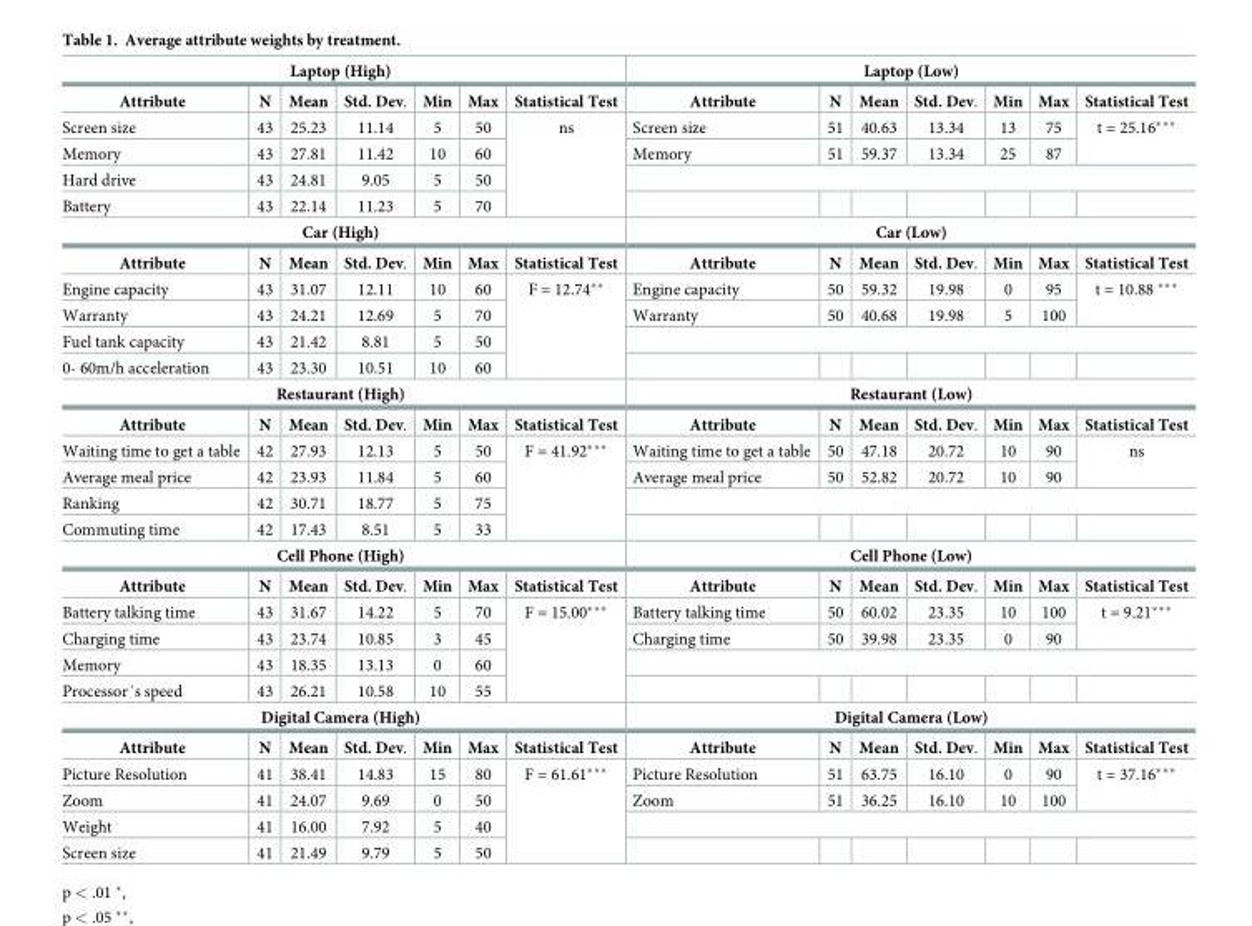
<table><tbody><tr><td colspan="7">Laptop (High)</td><td colspan="7">Laptop (Low)</td></tr><tr><td>Attribute</td><td>N</td><td>Mean</td><td>Std. Dev.</td><td>Min</td><td>Max</td><td>Statistical Test</td><td>Attribute</td><td>N</td><td>Mean</td><td>Std. Dev.</td><td>Min</td><td>Max</td><td>Statistical Test</td></tr><tr><td>Screen size</td><td>43</td><td>25.23</td><td>11.14</td><td>5</td><td>50</td><td rowspan="4">ns</td><td>Screen size</td><td>51</td><td>40.63</td><td>13.34</td><td>13</td><td>75</td><td rowspan="2">t = 25.16***</td></tr><tr><td>Memory</td><td>43</td><td>27.81</td><td>11.42</td><td>10</td><td>60</td><td>Memory</td><td>51</td><td>59.37</td><td>13.34</td><td>25</td><td>87</td></tr><tr><td>Hard drive</td><td>43</td><td>24.81</td><td>9.05</td><td>5</td><td>50</td><td colspan="7"></td></tr><tr><td>Battery</td><td>43</td><td>22.14</td><td>11.23</td><td>5</td><td>70</td><td></td><td></td><td></td><td></td><td></td><td></td><td></td></tr><tr><td colspan="7">Car (High)</td><td colspan="7">Car (Low)</td></tr><tr><td>Attribute</td><td>N</td><td>Mean</td><td>Std. Dev.</td><td>Min</td><td>Max</td><td>Statistical Test</td><td>Attribute</td><td>N</td><td>Mean</td><td>Std. Dev.</td><td>Min</td><td>Max</td><td>Statistical Test</td></tr><tr><td>Engine capacity</td><td>43</td><td>31.07</td><td>12.11</td><td>10</td><td>60</td><td rowspan="4">F = 12.74**</td><td>Engine capacity</td><td>50</td><td>59.32</td><td>19.98</td><td>0</td><td>95</td><td rowspan="2">t = 10.88 ***</td></tr><tr><td>Warranty</td><td>43</td><td>24.21</td><td>12.69</td><td>5</td><td>70</td><td>Warranty</td><td>50</td><td>40.68</td><td>19.98</td><td>5</td><td>100</td></tr><tr><td>Fuel tank capacity</td><td>43</td><td>21.42</td><td>8.81</td><td>5</td><td>50</td><td colspan="7"></td></tr><tr><td>0- 60m/h acceleration</td><td>43</td><td>23.30</td><td>10.51</td><td>10</td><td>60</td><td></td><td></td><td></td><td></td><td></td><td></td><td></td></tr><tr><td colspan="7">Restaurant (High)</td><td colspan="7">Restaurant (Low)</td></tr><tr><td>Attribute</td><td>N</td><td>Mean</td><td>Std. Dev.</td><td>Min</td><td>Max</td><td>Statistical Test</td><td>Attribute</td><td>N</td><td>Mean</td><td>Std. Dev.</td><td>Min</td><td>Max</td><td>Statistical Test</td></tr><tr><td>Waiting time to get a table</td><td>42</td><td>27.93</td><td>12.13</td><td>5</td><td>50</td><td rowspan="4">F = 41.92***</td><td>Waiting time to get a table</td><td>50</td><td>47.18</td><td>20.72</td><td>10</td><td>90</td><td rowspan="2">ns</td></tr><tr><td>Average meal price</td><td>42</td><td>23.93</td><td>11.84</td><td>5</td><td>60</td><td>Average meal price</td><td>50</td><td>52.82</td><td>20.72</td><td>10</td><td>90</td></tr><tr><td>Ranking</td><td>42</td><td>30.71</td><td>18.77</td><td>5</td><td>75</td><td colspan="7"></td></tr><tr><td>Commuting time</td><td>42</td><td>17.43</td><td>8.51</td><td>5</td><td>33</td><td></td><td></td><td></td><td></td><td></td><td></td><td></td></tr><tr><td colspan="7">Cell Phone (High)</td><td colspan="7">Cell Phone (Low)</td></tr><tr><td>Attribute</td><td>N</td><td>Mean</td><td>Std. Dev.</td><td>Min</td><td>Max</td><td>Statistical Test</td><td>Attribute</td><td>N</td><td>Mean</td><td>Std. Dev.</td><td>Min</td><td>Max</td><td>Statistical Test</td></tr><tr><td>Battery talking time</td><td>43</td><td>31.67</td><td>14.22</td><td>5</td><td>70</td><td rowspan="4">F = 15.00***</td><td>Battery talking time</td><td>50</td><td>60.02</td><td>23.35</td><td>10</td><td>100</td><td rowspan="2">t = 9.21***</td></tr><tr><td>Charging time</td><td>43</td><td>23.74</td><td>10.85</td><td>3</td><td>45</td><td>Charging time</td><td>50</td><td>39.98</td><td>23.35</td><td>0</td><td>90</td></tr><tr><td>Memory</td><td>43</td><td>18.35</td><td>13.13</td><td>0</td><td>60</td><td colspan="7"></td></tr><tr><td>Processor´s speed</td><td>43</td><td>26.21</td><td>10.58</td><td>10</td><td>55</td><td></td><td></td><td></td><td></td><td></td><td></td><td></td></tr><tr><td colspan="7">Digital Camera (High)</td><td colspan="7">Digital Camera (Low)</td></tr><tr><td>Attribute</td><td>N</td><td>Mean</td><td>Std. Dev.</td><td>Min</td><td>Max</td><td>Statistical Test</td><td>Attribute</td><td>N</td><td>Mean</td><td>Std. Dev.</td><td>Min</td><td>Max</td><td>Statistical Test</td></tr><tr><td>Picture Resolution</td><td>41</td><td>38.41</td><td>14.83</td><td>15</td><td>80</td><td rowspan="4">F = 61.61***</td><td>Picture Resolution</td><td>51</td><td>63.75</td><td>16.10</td><td>0</td><td>90</td><td rowspan="2">t = 37.16***</td></tr><tr><td>Zoom</td><td>41</td><td>24.07</td><td>9.69</td><td>0</td><td>50</td><td>Zoom</td><td>51</td><td>36.25</td><td>16.10</td><td>10</td><td>100</td></tr><tr><td>Weight</td><td>41</td><td>16.00</td><td>7.92</td><td>5</td><td>40</td><td colspan="7"></td></tr><tr><td>Screen size</td><td>41</td><td>21.49</td><td>9.79</td><td>5</td><td>50</td><td></td><td></td><td></td><td></td><td></td><td></td><td></td></tr></tbody></table>